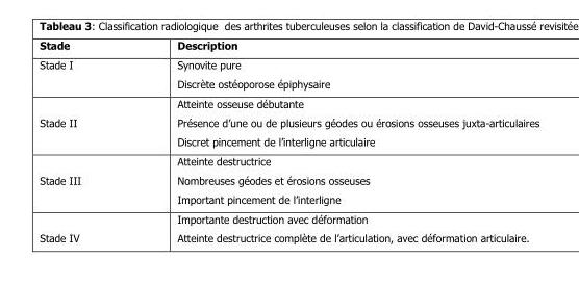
<table><thead><tr><td>Stade</td><td>Description</td></tr></thead><tbody><tr><td rowspan="2">Stade I</td><td>Synovite pure</td></tr><tr><td>Discrète ostéoporose épiphysaire</td></tr><tr><td rowspan="3">Stade II</td><td>Atteinte osseuse débutante</td></tr><tr><td>Présence d’une ou de plusieurs géodes ou érosions osseuses juxta-articulaires</td></tr><tr><td>Discret pincement de l’interligne articulaire</td></tr><tr><td rowspan="3">Stade III</td><td>Atteinte destructrice</td></tr><tr><td>Nombreuses géodes et érosions osseuses</td></tr><tr><td>Important pincement de l’interligne</td></tr><tr><td rowspan="2">Stade IV</td><td>Importante destruction avec déformation</td></tr><tr><td>Atteinte destructrice complète de l’articulation, avec déformation articulaire.</td></tr></tbody></table>